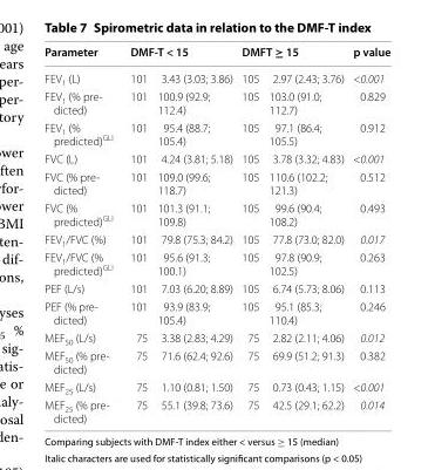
<table><thead><tr><td rowspan="2">Parameter FEV<sub>1</sub> (L)</td><td colspan="2">DMF‑T &lt; 15</td><td colspan="2">DMFT ≥ 15</td><td rowspan="2">p value &lt;0.001</td></tr><tr><td>101</td><td>3.43 (3.03; 3.86)</td><td>105</td><td>2.97 (2.43; 3.76)</td></tr></thead><tbody><tr><td>FEV1 (% pre- dicted)</td><td>101</td><td>100.9 (92.9; 112.4)</td><td>105</td><td>103.0 (91.0; 112.7)</td><td>0.829</td></tr><tr><td>FEV<sub>1</sub> (% predicted)<sup>GLI</sup></td><td>101</td><td>95.4 (88.7; 105.4)</td><td>105</td><td>97.1 (86.4; 105.5)</td><td>0.912</td></tr><tr><td>FVC (L)</td><td>101</td><td>4.24 (3.81; 5.18)</td><td>105</td><td>3.78 (3.32; 4.83)</td><td>&lt;0.001</td></tr><tr><td>FVC (% pre- dicted)</td><td>101</td><td>109.0 (99.6; 118.7)</td><td>105</td><td>110.6 (102.2; 121.3)</td><td>0.512</td></tr><tr><td>FVC (% predicted)<sup>GLI</sup></td><td>101</td><td>101.3 (91.1; 109.8)</td><td>105</td><td>99.6 (90.4; 108.2)</td><td>0.493</td></tr><tr><td>FEV<sub>1</sub>/FVC (%)</td><td>101</td><td>79.8 (75.3; 84.2)</td><td>105</td><td>77.8 (73.0; 82.0)</td><td>0.017</td></tr><tr><td>FEV<sub>1</sub>/FVC (% predicted)<sup>GLI</sup></td><td>101</td><td>95.6 (91.3; 100.1)</td><td>105</td><td>97.8 (90.9; 102.5)</td><td>0.263</td></tr><tr><td>PEF (L/s)</td><td>101</td><td>7.03 (6.20; 8.89)</td><td>105</td><td>6.74 (5.73; 8.06)</td><td>0.113</td></tr><tr><td>PEF (% pre- dicted)</td><td>101</td><td>93.9 (83.9; 105.4)</td><td>105</td><td>95.1 (85.3; 110.4)</td><td>0.246</td></tr><tr><td>MEF<sub>50</sub> (L/s)</td><td>75</td><td>3.38 (2.83; 4.29)</td><td>75</td><td>2.82 (2.11; 4.06)</td><td>0.012</td></tr><tr><td>MEF50 (% pre- dicted)</td><td>75</td><td>71.6 (62.4; 92.6)</td><td>75</td><td>69.9 (51.2; 91.3)</td><td>0.382</td></tr><tr><td>MEF<sub>25</sub> (L/s)</td><td>75</td><td>1.10 (0.81; 1.50)</td><td>75</td><td>0.73 (0.43; 1.15)</td><td>&lt;0.001</td></tr><tr><td>MEF25 (% pre- dicted)</td><td>75</td><td>55.1 (39.8; 73.6)</td><td>75</td><td>42.5 (29.1; 62.2)</td><td>0.014</td></tr></tbody></table>